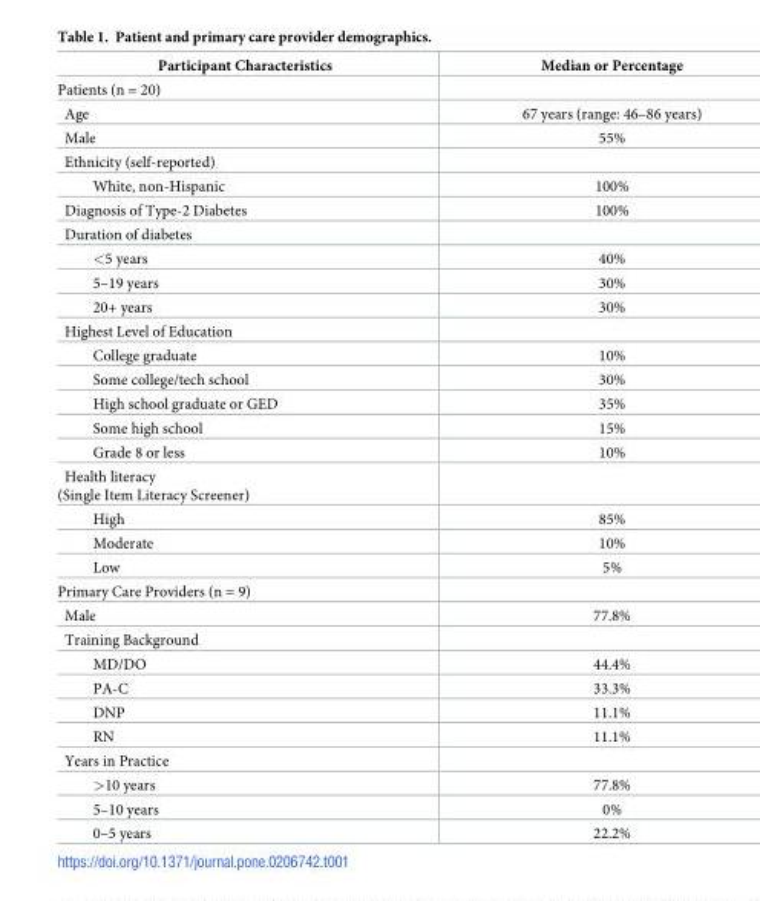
<table><thead><tr><td>Participant Characteristics</td><td>Median or Percentage</td></tr></thead><tbody><tr><td colspan="2">Patients (n = 20)</td></tr><tr><td>Age</td><td>67 years (range: 46–86 years)</td></tr><tr><td>Male</td><td>55%</td></tr><tr><td colspan="2">Ethnicity (self-reported)</td></tr><tr><td>White, non-Hispanic</td><td>100%</td></tr><tr><td>Diagnosis of Type-2 Diabetes</td><td>100%</td></tr><tr><td colspan="2">Duration of diabetes</td></tr><tr><td>&lt;5 years</td><td>40%</td></tr><tr><td>5–19 years</td><td>30%</td></tr><tr><td>20+ years</td><td>30%</td></tr><tr><td colspan="2">Highest Level of Education</td></tr><tr><td>College graduate</td><td>10%</td></tr><tr><td>Some college/tech school</td><td>30%</td></tr><tr><td>High school graduate or GED</td><td>35%</td></tr><tr><td>Some high school</td><td>15%</td></tr><tr><td>Grade 8 or less</td><td>10%</td></tr><tr><td colspan="2">Health literacy (Single Item Literacy Screener)</td></tr><tr><td>High</td><td>85%</td></tr><tr><td>Moderate</td><td>10%</td></tr><tr><td>Low</td><td>5%</td></tr><tr><td colspan="2">Primary Care Providers (n = 9)</td></tr><tr><td>Male</td><td>77.8%</td></tr><tr><td colspan="2">Training Background</td></tr><tr><td>MD/DO</td><td>44.4%</td></tr><tr><td>PA-C</td><td>33.3%</td></tr><tr><td>DNP</td><td>11.1%</td></tr><tr><td>RN</td><td>11.1%</td></tr><tr><td colspan="2">Years in Practice</td></tr><tr><td>&gt;10 years</td><td>77.8%</td></tr><tr><td>5–10 years</td><td>0%</td></tr><tr><td>0–5 years</td><td>22.2%</td></tr></tbody></table>